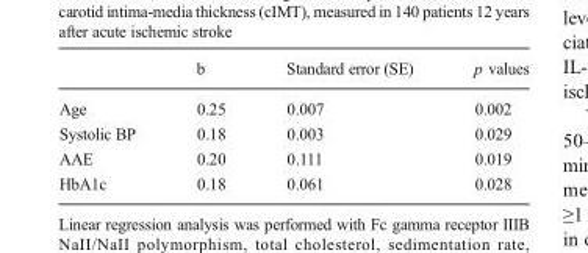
<table><thead><tr><td></td><td>b</td><td>Standard error (SE)</td><td>p values</td></tr></thead><tbody><tr><td>Age</td><td>0.25</td><td>0.007</td><td>0.002</td></tr><tr><td>Systolic BP</td><td>0.18</td><td>0.003</td><td>0.029</td></tr><tr><td>AAE</td><td>0.20</td><td>0.111</td><td>0.019</td></tr><tr><td>HbA1c</td><td>0.18</td><td>0.061</td><td>0.028</td></tr></tbody></table>